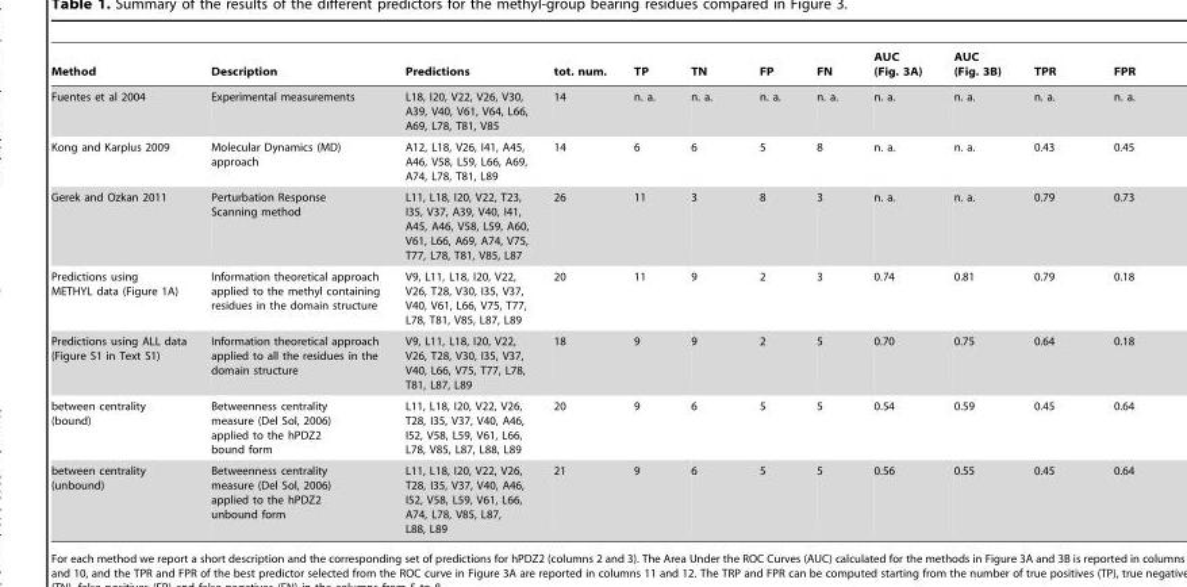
<table><thead><tr><td>Method</td><td>Description</td><td>Predictions</td><td>tot. num.</td><td>TP</td><td>TN</td><td>FP</td><td>FN</td><td>AUC (Fig. 3A)</td><td>AUC (Fig. 3B)</td><td>TPR</td><td>FPR</td></tr></thead><tbody><tr><td>Fuentes et al 2004</td><td>Experimental measurements</td><td>L18, I20, V22, V26, V30, A39, V40, V61, V64, L66, A69, L78, T81, V85</td><td>14</td><td>n. a.</td><td>n. a.</td><td>n. a.</td><td>n. a.</td><td>n. a.</td><td>n. a.</td><td>n. a.</td><td>n. a.</td></tr><tr><td>Kong and Karplus 2009</td><td>Molecular Dynamics (MD) approach</td><td>A12, L18, V26, I41, A45, A46, V58, L59, L66, A69, A74, L78, T81, L89</td><td>14</td><td>6</td><td>6</td><td>5</td><td>8</td><td>n. a.</td><td>n. a.</td><td>0.43</td><td>0.45</td></tr><tr><td>Gerek and Ozkan 2011</td><td>Perturbation Response Scanning method</td><td>L11, L18, I20, V22, T23, I35, V37, A39, V40, I41, A45, A46, V58, L59, A60, V61, L66, A69, A74, V75, T77, L78, T81, V85, L87</td><td>26</td><td>11</td><td>3</td><td>8</td><td>3</td><td>n. a.</td><td>n. a.</td><td>0.79</td><td>0.73</td></tr><tr><td>Predictions using METHYL data (Figure 1A)</td><td>Information theoretical approach applied to the methyl containing residues in the domain structure</td><td>V9, L11, L18, I20, V22, V26, T28, V30, I35, V37, V40, V61, L66, V75, T77, L78, T81, V85, L87, L89</td><td>20</td><td>11</td><td>9</td><td>2</td><td>3</td><td>0.74</td><td>0.81</td><td>0.79</td><td>0.18</td></tr><tr><td>Predictions using ALL data (Figure S1 in Text S1)</td><td>Information theoretical approach applied to all the residues in the domain structure</td><td>V9, L11, L18, I20, V22, V26, T28, V30, I35, V37, V40, L66, V75, T77, L78, T81, L87, L89</td><td>18</td><td>9</td><td>9</td><td>2</td><td>5</td><td>0.70</td><td>0.75</td><td>0.64</td><td>0.18</td></tr><tr><td>between centrality (bound)</td><td>Betweenness centrality measure (Del Sol, 2006) applied to the hPDZ2 bound form</td><td>L11, L18, I20, V22, V26, T28, I35, V37, V40, A46, I52, V58, L59, V61, L66, L78, V85, L87, L88, L89</td><td>20</td><td>9</td><td>6</td><td>5</td><td>5</td><td>0.54</td><td>0.59</td><td>0.45</td><td>0.64</td></tr><tr><td>between centrality (unbound)</td><td>Betweenness centrality measure (Del Sol, 2006) applied to the hPDZ2 unbound form</td><td>L11, L18, I20, V22, V26, T28, I35, V37, V40, A46, I52, V58, L59, V61, L66, A74, L78, V85, L87, L88, L89</td><td>21</td><td>9</td><td>6</td><td>5</td><td>5</td><td>0.56</td><td>0.55</td><td>0.45</td><td>0.64</td></tr></tbody></table>